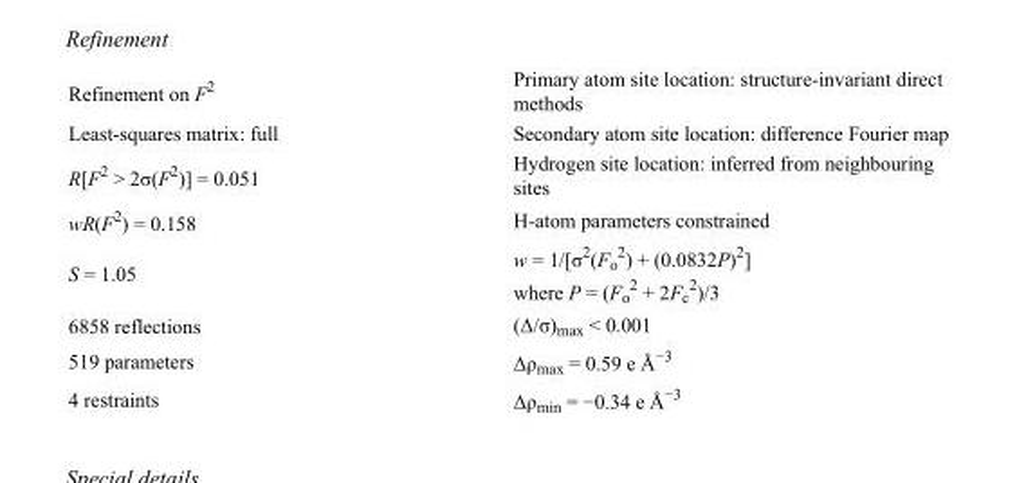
<table><tbody><tr><td>Refinement on F<sup>2</sup></td><td>Primary atom site location: structure-invariant direct methods</td></tr><tr><td>Least-squares matrix: full</td><td>Secondary atom site location: difference Fourier map</td></tr><tr><td>R[F<sup>2</sup> &gt; 2σ(F<sup>2</sup>)] = 0.051</td><td>Hydrogen site location: inferred from neighbouring sites</td></tr><tr><td>wR(F<sup>2</sup>) = 0.158</td><td>H-atom parameters constrained</td></tr><tr><td>S = 1.05</td><td>w = 1/[σ<sup>2</sup>(F<sub>o</sub> <sup>2</sup>) + (0.0832P)<sup>2</sup>] where P = (F<sub>o</sub> <sup>2</sup> + 2F<sub>c</sub> <sup>2</sup>)/3</td></tr><tr><td>6858 reflections</td><td>(Δ/σ)<sub>max</sub> &lt; 0.001</td></tr><tr><td>519 parameters</td><td>Δρ<sub>max</sub> = 0.59 e Å<sup>−3</sup></td></tr><tr><td>4 restraints</td><td>Δρ<sub>min</sub> = −0.34 e Å<sup>−3</sup></td></tr></tbody></table>